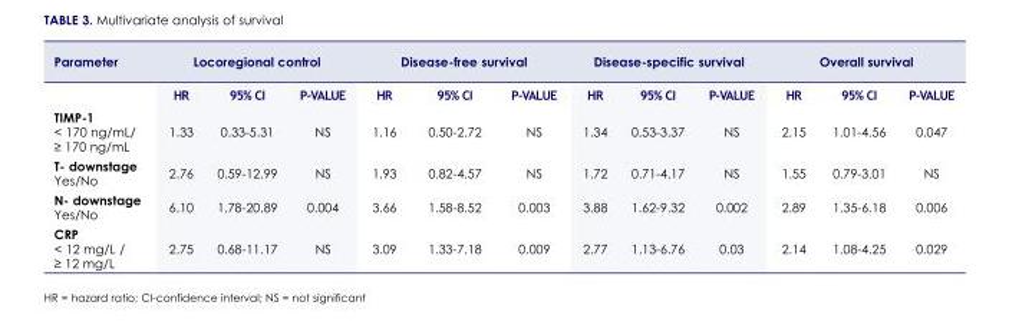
<table><thead><tr><td rowspan="2">Parameter</td><td colspan="3">Locoregional control</td><td colspan="3">Disease-free survival</td><td colspan="3">Disease-specific survival</td><td colspan="3">Overall survival</td></tr><tr><td>HR</td><td>95% CI</td><td>P-vALUE</td><td>HR</td><td>95% CI</td><td>P-vALUE</td><td>HR</td><td>95% CI</td><td>P-vALUE</td><td>HR</td><td>95% CI</td><td>P-vALUE</td></tr></thead><tbody><tr><td>TIMP-1 &lt; 170 ng/mL/ ≥ 170 ng/mL</td><td>1.33</td><td>0.33-5.31</td><td>NS</td><td>1.16</td><td>0.50-2.72</td><td>NS</td><td>1.34</td><td>0.53-3.37</td><td>NS</td><td>2.15</td><td>1.01-4.56</td><td>0.047</td></tr><tr><td>T- downstage Yes/No</td><td>2.76</td><td>0.59-12.99</td><td>NS</td><td>1.93</td><td>0.82-4.57</td><td>NS</td><td>1.72</td><td>0.71-4.17</td><td>NS</td><td>1.55</td><td>0.79-3.01</td><td>NS</td></tr><tr><td>N- downstage Yes/No</td><td>6.10</td><td>1.78-20.89</td><td>0.004</td><td>3.66</td><td>1.58-8.52</td><td>0.003</td><td>3.88</td><td>1.62-9.32</td><td>0.002</td><td>2.89</td><td>1.35-6.18</td><td>0.006</td></tr><tr><td>CRP &lt; 12 mg/L / ≥ 12 mg/L</td><td>2.75</td><td>0.68-11.17</td><td>NS</td><td>3.09</td><td>1.33-7.18</td><td>0.009</td><td>2.77</td><td>1.13-6.76</td><td>0.03</td><td>2.14</td><td>1.08-4.25</td><td>0.029</td></tr></tbody></table>